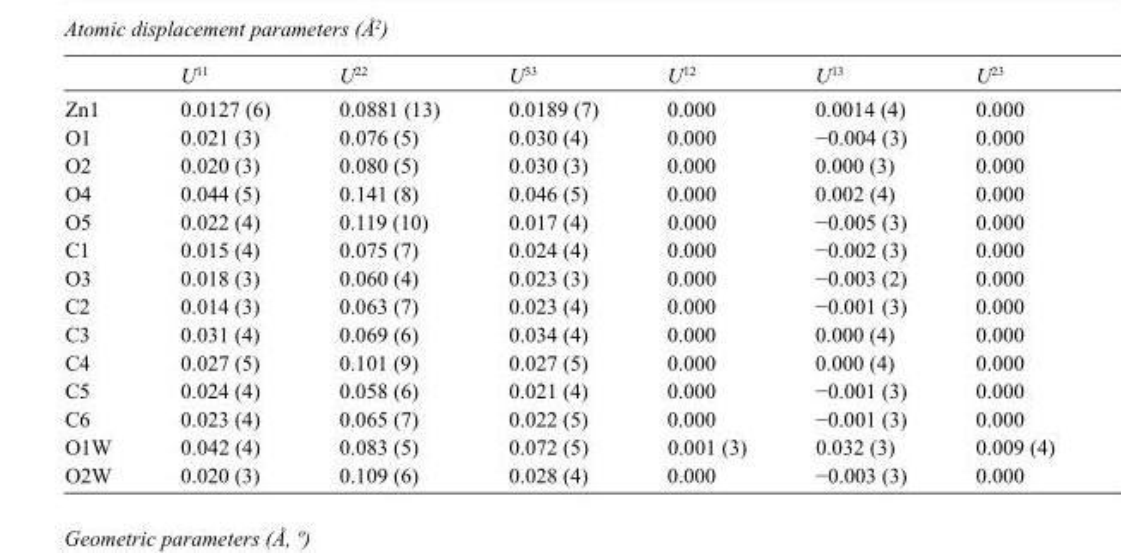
<table><thead><tr><td></td><td>U<sup>11</sup></td><td>U<sup>22</sup></td><td>U<sup>33</sup></td><td>U<sup>12</sup></td><td>U<sup>13</sup></td><td>U<sup>23</sup></td></tr></thead><tbody><tr><td>Zn1</td><td>0.0127 (6)</td><td>0.0881 (13)</td><td>0.0189 (7)</td><td>0.000</td><td>0.0014 (4)</td><td>0.000</td></tr><tr><td>O1</td><td>0.021 (3)</td><td>0.076 (5)</td><td>0.030 (4)</td><td>0.000</td><td>−0.004 (3)</td><td>0.000</td></tr><tr><td>O2</td><td>0.020 (3)</td><td>0.080 (5)</td><td>0.030 (3)</td><td>0.000</td><td>0.000 (3)</td><td>0.000</td></tr><tr><td>O4</td><td>0.044 (5)</td><td>0.141 (8)</td><td>0.046 (5)</td><td>0.000</td><td>0.002 (4)</td><td>0.000</td></tr><tr><td>O5</td><td>0.022 (4)</td><td>0.119 (10)</td><td>0.017 (4)</td><td>0.000</td><td>−0.005 (3)</td><td>0.000</td></tr><tr><td>C1</td><td>0.015 (4)</td><td>0.075 (7)</td><td>0.024 (4)</td><td>0.000</td><td>−0.002 (3)</td><td>0.000</td></tr><tr><td>O3</td><td>0.018 (3)</td><td>0.060 (4)</td><td>0.023 (3)</td><td>0.000</td><td>−0.003 (2)</td><td>0.000</td></tr><tr><td>C2</td><td>0.014 (3)</td><td>0.063 (7)</td><td>0.023 (4)</td><td>0.000</td><td>−0.001 (3)</td><td>0.000</td></tr><tr><td>C3</td><td>0.031 (4)</td><td>0.069 (6)</td><td>0.034 (4)</td><td>0.000</td><td>0.000 (4)</td><td>0.000</td></tr><tr><td>C4</td><td>0.027 (5)</td><td>0.101 (9)</td><td>0.027 (5)</td><td>0.000</td><td>0.000 (4)</td><td>0.000</td></tr><tr><td>C5</td><td>0.024 (4)</td><td>0.058 (6)</td><td>0.021 (4)</td><td>0.000</td><td>−0.001 (3)</td><td>0.000</td></tr><tr><td>C6</td><td>0.023 (4)</td><td>0.065 (7)</td><td>0.022 (5)</td><td>0.000</td><td>−0.001 (3)</td><td>0.000</td></tr><tr><td>O1W</td><td>0.042 (4)</td><td>0.083 (5)</td><td>0.072 (5)</td><td>0.001 (3)</td><td>0.032 (3)</td><td>0.009 (4)</td></tr><tr><td>O2W</td><td>0.020 (3)</td><td>0.109 (6)</td><td>0.028 (4)</td><td>0.000</td><td>−0.003 (3)</td><td>0.000</td></tr></tbody></table>